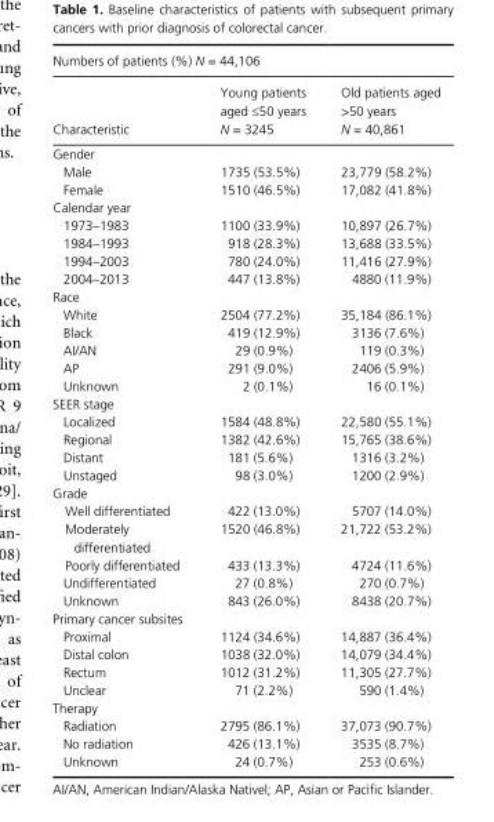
<table><thead><tr><td colspan="3">Numbers of patients (%) N = 44,106</td></tr><tr><td>Characteristic</td><td>Young patients aged ≤50 years N = 3245</td><td>Old patients aged &gt;50 years N = 40,861</td></tr></thead><tbody><tr><td colspan="3">Gender</td></tr><tr><td>Male</td><td>1735 (53.5%)</td><td>23,779 (58.2%)</td></tr><tr><td>Female</td><td>1510 (46.5%)</td><td>17,082 (41.8%)</td></tr><tr><td colspan="3">Calendar year</td></tr><tr><td>1973–1983</td><td>1100 (33.9%)</td><td>10,897 (26.7%)</td></tr><tr><td>1984–1993</td><td>918 (28.3%)</td><td>13,688 (33.5%)</td></tr><tr><td>1994–2003</td><td>780 (24.0%)</td><td>11,416 (27.9%)</td></tr><tr><td>2004–2013</td><td>447 (13.8%)</td><td>4880 (11.9%)</td></tr><tr><td colspan="3">Race</td></tr><tr><td>White</td><td>2504 (77.2%)</td><td>35,184 (86.1%)</td></tr><tr><td>Black</td><td>419 (12.9%)</td><td>3136 (7.6%)</td></tr><tr><td>AI/AN</td><td>29 (0.9%)</td><td>119 (0.3%)</td></tr><tr><td>AP</td><td>291 (9.0%)</td><td>2406 (5.9%)</td></tr><tr><td>Unknown</td><td>2 (0.1%)</td><td>16 (0.1%)</td></tr><tr><td colspan="3">SEER stage</td></tr><tr><td>Localized</td><td>1584 (48.8%)</td><td>22,580 (55.1%)</td></tr><tr><td>Regional</td><td>1382 (42.6%)</td><td>15,765 (38.6%)</td></tr><tr><td>Distant</td><td>181 (5.6%)</td><td>1316 (3.2%)</td></tr><tr><td>Unstaged</td><td>98 (3.0%)</td><td>1200 (2.9%)</td></tr><tr><td colspan="3">Grade</td></tr><tr><td>Well differentiated</td><td>422 (13.0%)</td><td>5707 (14.0%)</td></tr><tr><td>Moderately differentiated</td><td>1520 (46.8%)</td><td>21,722 (53.2%)</td></tr><tr><td>Poorly differentiated</td><td>433 (13.3%)</td><td>4724 (11.6%)</td></tr><tr><td>Undifferentiated</td><td>27 (0.8%)</td><td>270 (0.7%)</td></tr><tr><td>Unknown</td><td>843 (26.0%)</td><td>8438 (20.7%)</td></tr><tr><td colspan="3">Primary cancer subsites</td></tr><tr><td>Proximal</td><td>1124 (34.6%)</td><td>14,887 (36.4%)</td></tr><tr><td>Distal colon</td><td>1038 (32.0%)</td><td>14,079 (34.4%)</td></tr><tr><td>Rectum</td><td>1012 (31.2%)</td><td>11,305 (27.7%)</td></tr><tr><td>Unclear</td><td>71 (2.2%)</td><td>590 (1.4%)</td></tr><tr><td colspan="3">Therapy</td></tr><tr><td>Radiation</td><td>2795 (86.1%)</td><td>37,073 (90.7%)</td></tr><tr><td>No radiation</td><td>426 (13.1%)</td><td>3535 (8.7%)</td></tr><tr><td>Unknown</td><td>24 (0.7%)</td><td>253 (0.6%)</td></tr></tbody></table>